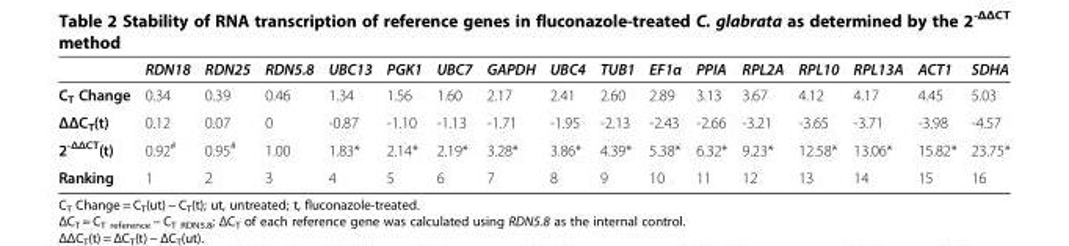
<table><thead><tr><td></td><td>RDN18</td><td>RDN25</td><td>RDN5.8</td><td>UBC13</td><td>PGK1</td><td>UBC7</td><td>GAPDH</td><td>UBC4</td><td>TUB1</td><td>EF1α</td><td>PPIA</td><td>RPL2A</td><td>RPL10</td><td>RPL13A</td><td>ACT1</td><td>SDHA</td></tr></thead><tbody><tr><td>C<sub>T</sub> Change</td><td>0.34</td><td>0.39</td><td>0.46</td><td>1.34</td><td>1.56</td><td>1.60</td><td>2.17</td><td>2.41</td><td>2.60</td><td>2.89</td><td>3.13</td><td>3.67</td><td>4.12</td><td>4.17</td><td>4.45</td><td>5.03</td></tr><tr><td>ΔΔC<sub>T</sub>(t)</td><td>0.12</td><td>0.07</td><td>0</td><td>-0.87</td><td>-1.10</td><td>-1.13</td><td>-1.71</td><td>-1.95</td><td>-2.13</td><td>-2.43</td><td>-2.66</td><td>-3.21</td><td>-3.65</td><td>-3.71</td><td>-3.98</td><td>-4.57</td></tr><tr><td>2<sup>-ΔΔCT</sup>(t)</td><td>0.92<sup>#</sup></td><td>0.95<sup>#</sup></td><td>1.00</td><td>1.83*</td><td>2.14*</td><td>2.19*</td><td>3.28*</td><td>3.86*</td><td>4.39*</td><td>5.38*</td><td>6.32*</td><td>9.23*</td><td>12.58*</td><td>13.06*</td><td>15.82*</td><td>23.75*</td></tr><tr><td>Ranking</td><td>1</td><td>2</td><td>3</td><td>4</td><td>5</td><td>6</td><td>7</td><td>8</td><td>9</td><td>10</td><td>11</td><td>12</td><td>13</td><td>14</td><td>15</td><td>16</td></tr></tbody></table>